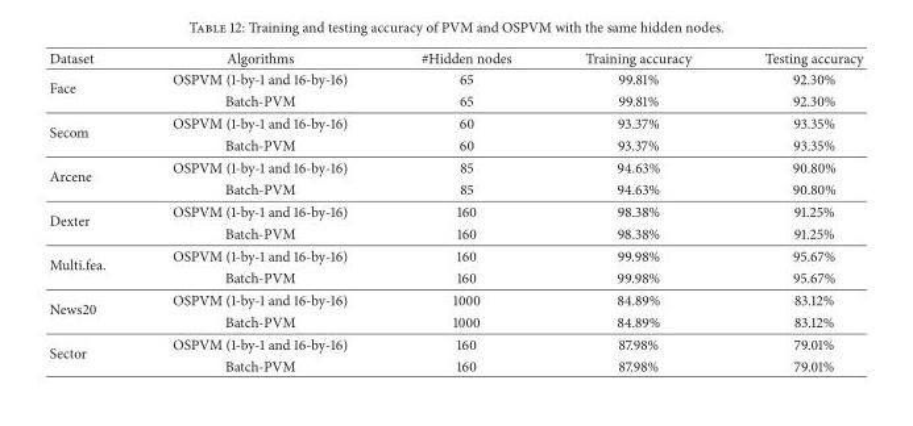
<table><thead><tr><td>Dataset</td><td>Algorithms</td><td>#Hidden nodes</td><td>Training accuracy</td><td>Testing accuracy</td></tr></thead><tbody><tr><td rowspan="2">Face</td><td>OSPVM (1-by-1 and 16-by-16)</td><td>65</td><td>99.81%</td><td>92.30%</td></tr><tr><td>Batch-PVM</td><td>65</td><td>99.81%</td><td>92.30%</td></tr><tr><td rowspan="2">Secom</td><td>OSPVM (1-by-1 and 16-by-16)</td><td>60</td><td>93.37%</td><td>93.35%</td></tr><tr><td>Batch-PVM</td><td>60</td><td>93.37%</td><td>93.35%</td></tr><tr><td rowspan="2">Arcene</td><td>OSPVM (1-by-1 and 16-by-16)</td><td>85</td><td>94.63%</td><td>90.80%</td></tr><tr><td>Batch-PVM</td><td>85</td><td>94.63%</td><td>90.80%</td></tr><tr><td rowspan="2">Dexter</td><td>OSPVM (1-by-1 and 16-by-16)</td><td>160</td><td>98.38%</td><td>91.25%</td></tr><tr><td>Batch-PVM</td><td>160</td><td>98.38%</td><td>91.25%</td></tr><tr><td rowspan="2">Multi.fea.</td><td>OSPVM (1-by-1 and 16-by-16)</td><td>160</td><td>99.98%</td><td>95.67%</td></tr><tr><td>Batch-PVM</td><td>160</td><td>99.98%</td><td>95.67%</td></tr><tr><td rowspan="2">News20</td><td>OSPVM (1-by-1 and 16-by-16)</td><td>1000</td><td>84.89%</td><td>83.12%</td></tr><tr><td>Batch-PVM</td><td>1000</td><td>84.89%</td><td>83.12%</td></tr><tr><td rowspan="2">Sector</td><td>OSPVM (1-by-1 and 16-by-16)</td><td>160</td><td>87.98%</td><td>79.01%</td></tr><tr><td>Batch-PVM</td><td>160</td><td>87.98%</td><td>79.01%</td></tr></tbody></table>